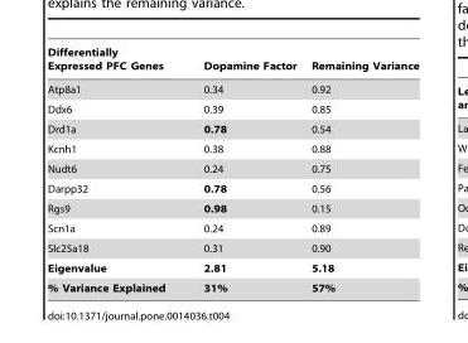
<table><thead><tr><td>Differentially Expressed PFC Genes</td><td>Dopamine Factor</td><td>Remaining Variance</td></tr></thead><tbody><tr><td>Atp8a1</td><td>0.34</td><td>0.92</td></tr><tr><td>Ddx6</td><td>0.39</td><td>0.85</td></tr><tr><td>Drd1a</td><td>0.78</td><td>0.54</td></tr><tr><td>Kcnh1</td><td>0.38</td><td>0.88</td></tr><tr><td>Nudt6</td><td>0.24</td><td>0.75</td></tr><tr><td>Darpp32</td><td>0.78</td><td>0.56</td></tr><tr><td>Rgs9</td><td>0.98</td><td>0.15</td></tr><tr><td>Scn1a</td><td>0.24</td><td>0.89</td></tr><tr><td>Slc25a18</td><td>0.31</td><td>0.90</td></tr><tr><td>Eigenvalue</td><td>2.81</td><td>5.18</td></tr><tr><td>% Variance Explained</td><td>31%</td><td>57%</td></tr></tbody></table>